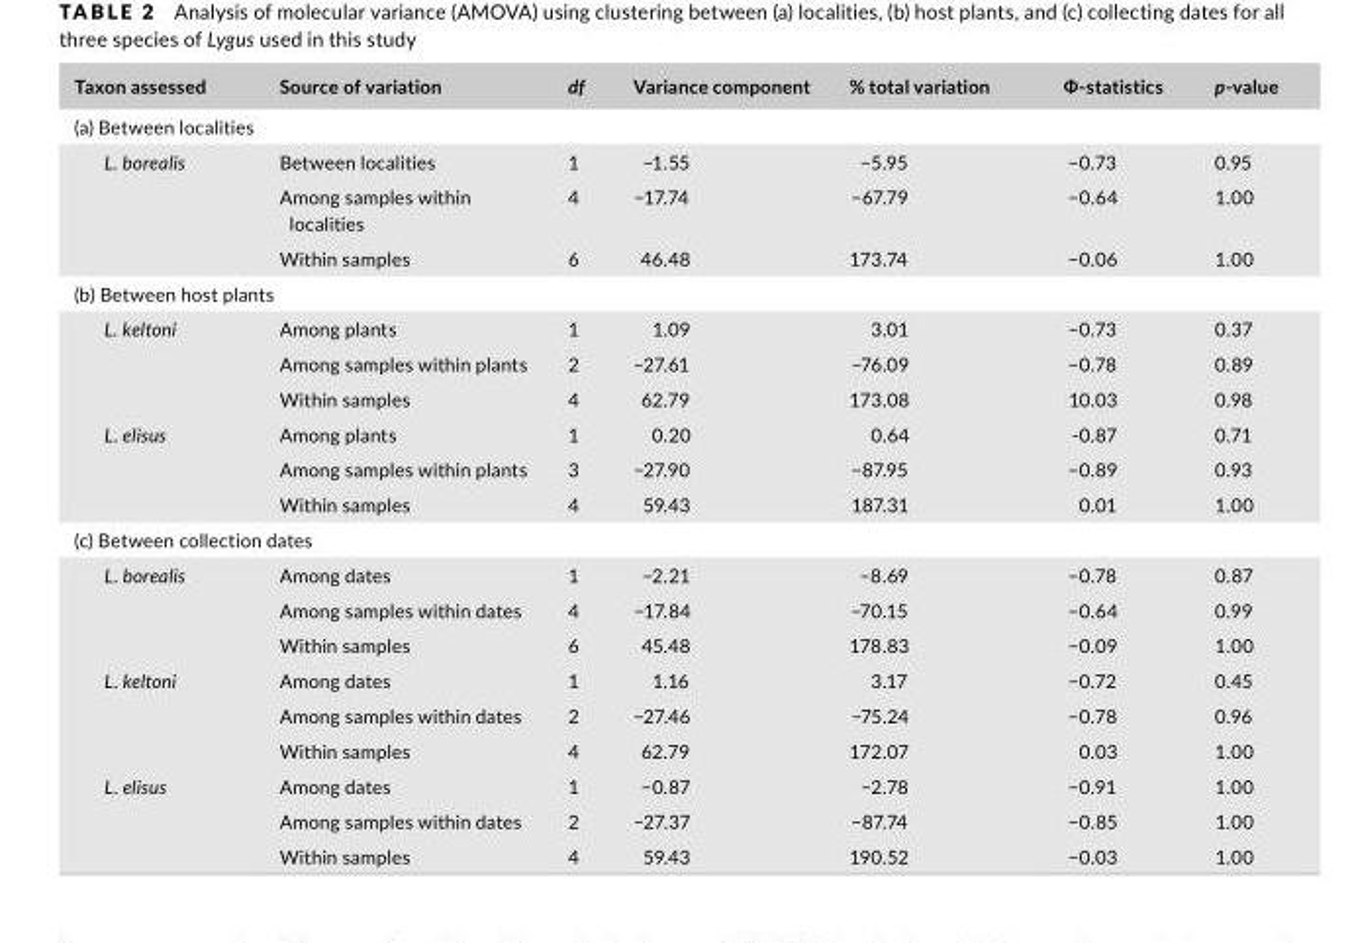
<table><thead><tr><td>Taxon assessed</td><td>Source of variation</td><td>df</td><td>Variance component</td><td>% total variation</td><td>Ф- statistics</td><td>p- value</td></tr></thead><tbody><tr><td colspan="7">(a) Between localities</td></tr><tr><td rowspan="3">L. borealis</td><td>Between localities</td><td>1</td><td>−1.55</td><td>−5.95</td><td>−0.73</td><td>0.95</td></tr><tr><td>Among samples within localities</td><td>4</td><td>−17.74</td><td>−67.79</td><td>−0.64</td><td>1.00</td></tr><tr><td>Within samples</td><td>6</td><td>46.48</td><td>173.74</td><td>−0.06</td><td>1.00</td></tr><tr><td colspan="7">(b) Between host plants</td></tr><tr><td rowspan="3">L. keltoni</td><td>Among plants</td><td>1</td><td>1.09</td><td>3.01</td><td>−0.73</td><td>0.37</td></tr><tr><td>Among samples within plants</td><td>2</td><td>−27.61</td><td>−76.09</td><td>−0.78</td><td>0.89</td></tr><tr><td>Within samples</td><td>4</td><td>62.79</td><td>173.08</td><td>10.03</td><td>0.98</td></tr><tr><td rowspan="3">L. elisus</td><td>Among plants</td><td>1</td><td>0.20</td><td>0.64</td><td>- 0.87</td><td>0.71</td></tr><tr><td>Among samples within plants</td><td>3</td><td>−27.90</td><td>−87.95</td><td>−0.89</td><td>0.93</td></tr><tr><td>Within samples</td><td>4</td><td>59.43</td><td>187.31</td><td>0.01</td><td>1.00</td></tr><tr><td colspan="7">(c) Between collection dates</td></tr><tr><td rowspan="3">L. borealis</td><td>Among dates</td><td>1</td><td>−2.21</td><td>−8.69</td><td>−0.78</td><td>0.87</td></tr><tr><td>Among samples within dates</td><td>4</td><td>−17.84</td><td>−70.15</td><td>−0.64</td><td>0.99</td></tr><tr><td>Within samples</td><td>6</td><td>45.48</td><td>178.83</td><td>−0.09</td><td>1.00</td></tr><tr><td rowspan="3">L. keltoni</td><td>Among dates</td><td>1</td><td>1.16</td><td>3.17</td><td>−0.72</td><td>0.45</td></tr><tr><td>Among samples within dates</td><td>2</td><td>−27.46</td><td>−75.24</td><td>−0.78</td><td>0.96</td></tr><tr><td>Within samples</td><td>4</td><td>62.79</td><td>172.07</td><td>0.03</td><td>1.00</td></tr><tr><td rowspan="3">L. elisus</td><td>Among dates</td><td>1</td><td>−0.87</td><td>−2.78</td><td>−0.91</td><td>1.00</td></tr><tr><td>Among samples within dates</td><td>2</td><td>−27.37</td><td>−87.74</td><td>−0.85</td><td>1.00</td></tr><tr><td>Within samples</td><td>4</td><td>59.43</td><td>190.52</td><td>−0.03</td><td>1.00</td></tr></tbody></table>